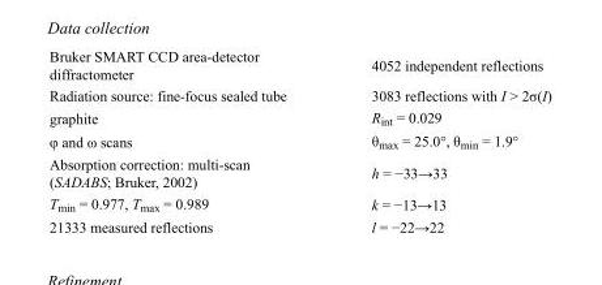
<table><tbody><tr><td>Bruker SMART CCD area-detector diffractometer</td><td>4052 independent reflections</td></tr><tr><td>Radiation source: fine-focus sealed tube</td><td>3083 reflections with I &gt; 2σ(I)</td></tr><tr><td>graphite</td><td>R<sub>int</sub> = 0.029</td></tr><tr><td>φ and ω scans</td><td>θ<sub>max</sub> = 25.0°, θ<sub>min</sub> = 1.9°</td></tr><tr><td>Absorption correction: multi-scan (SADABS; Bruker, 2002)</td><td>h = −33→33</td></tr><tr><td>T<sub>min</sub> = 0.977, T<sub>max</sub> = 0.989</td><td>k = −13→13</td></tr><tr><td>21333 measured reflections</td><td>l = −22→22</td></tr></tbody></table>